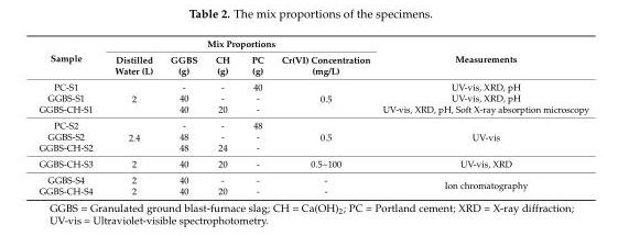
<table><thead><tr><td rowspan="2">Sample</td><td colspan="5">Mix Proportions</td><td rowspan="2">Measurements</td></tr><tr><td>Distilled Water (L)</td><td>GGBS (g)</td><td>CH (g)</td><td>PC (g)</td><td>Cr(VI) Concentration (mg/L)</td></tr></thead><tbody><tr><td>PC-S1</td><td rowspan="3">2</td><td>-</td><td>-</td><td>40</td><td rowspan="3">0.5</td><td>UV-vis, XRD, pH</td></tr><tr><td>GGBS-S1</td><td>40</td><td>-</td><td>-</td><td>UV-vis, XRD, pH</td></tr><tr><td>GGBS-CH-S1</td><td>40</td><td>20</td><td>-</td><td>UV-vis, XRD, pH, Soft X-ray absorption microscopy</td></tr><tr><td>PC-S2</td><td rowspan="3">2.4</td><td>-</td><td>-</td><td>48</td><td rowspan="3">0.5</td><td rowspan="3">UV-vis</td></tr><tr><td>GGBS-S2</td><td>48</td><td>-</td><td>-</td></tr><tr><td>GGBS-CH-S2</td><td>48</td><td>24</td><td>-</td></tr><tr><td>GGBS-CH-S3</td><td>2</td><td>40</td><td>20</td><td>-</td><td>0.5~100</td><td>UV-vis, XRD</td></tr><tr><td>GGBS-S4</td><td>2</td><td>40</td><td>-</td><td>-</td><td>-</td><td rowspan="2">Ion chromatography</td></tr><tr><td>GGBS-CH-S4</td><td>2</td><td>40</td><td>20</td><td>-</td><td>-</td></tr></tbody></table>